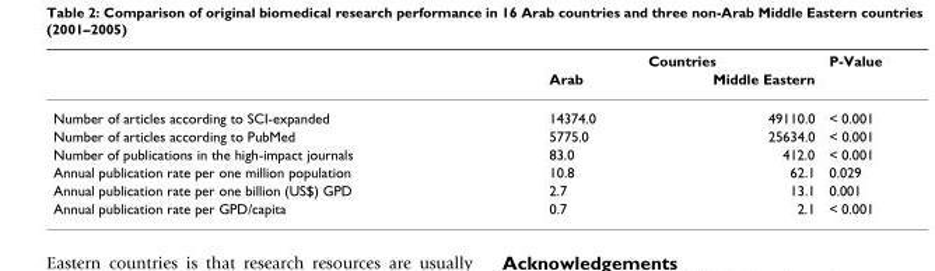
<table><thead><tr><td rowspan="2"></td><td colspan="2">Countries</td><td rowspan="2">P-Value</td></tr><tr><td>Arab</td><td>Middle Eastern</td></tr></thead><tbody><tr><td>Number of articles according to SCI-expanded</td><td>14374.0</td><td>49110.0</td><td>&lt; 0.001</td></tr><tr><td>Number of articles according to PubMed</td><td>5775.0</td><td>25634.0</td><td>&lt; 0.001</td></tr><tr><td>Number of publications in the high-impact journals</td><td>83.0</td><td>412.0</td><td>&lt; 0.001</td></tr><tr><td>Annual publication rate per one million population</td><td>10.8</td><td>62.1</td><td>0.029</td></tr><tr><td>Annual publication rate per one billion (US$) GPD</td><td>2.7</td><td>13.1</td><td>0.001</td></tr><tr><td>Annual publication rate per GPD/capita</td><td>0.7</td><td>2.1</td><td>&lt; 0.001</td></tr></tbody></table>